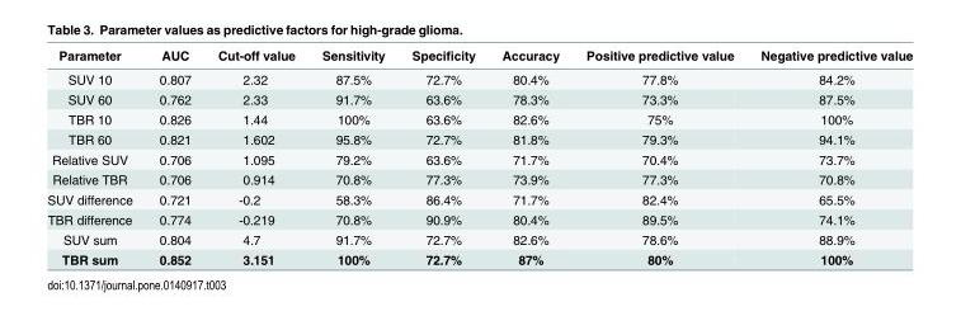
<table><thead><tr><td>Parameter</td><td>AUC</td><td>Cut-off value</td><td>Sensitivity</td><td>Specificity</td><td>Accuracy</td><td>Positive predictive value</td><td>Negative predictive value</td></tr></thead><tbody><tr><td>SUV 10</td><td>0.807</td><td>2.32</td><td>87.5%</td><td>72.7%</td><td>80.4%</td><td>77.8%</td><td>84.2%</td></tr><tr><td>SUV 60</td><td>0.762</td><td>2.33</td><td>91.7%</td><td>63.6%</td><td>78.3%</td><td>73.3%</td><td>87.5%</td></tr><tr><td>TBR 10</td><td>0.826</td><td>1.44</td><td>100%</td><td>63.6%</td><td>82.6%</td><td>75%</td><td>100%</td></tr><tr><td>TBR 60</td><td>0.821</td><td>1.602</td><td>95.8%</td><td>72.7%</td><td>81.8%</td><td>79.3%</td><td>94.1%</td></tr><tr><td>Relative SUV</td><td>0.706</td><td>1.095</td><td>79.2%</td><td>63.6%</td><td>71.7%</td><td>70.4%</td><td>73.7%</td></tr><tr><td>Relative TBR</td><td>0.706</td><td>0.914</td><td>70.8%</td><td>77.3%</td><td>73.9%</td><td>77.3%</td><td>70.8%</td></tr><tr><td>SUV difference</td><td>0.721</td><td>-0.2</td><td>58.3%</td><td>86.4%</td><td>71.7%</td><td>82.4%</td><td>65.5%</td></tr><tr><td>TBR difference</td><td>0.774</td><td>-0.219</td><td>70.8%</td><td>90.9%</td><td>80.4%</td><td>89.5%</td><td>74.1%</td></tr><tr><td>SUV sum</td><td>0.804</td><td>4.7</td><td>91.7%</td><td>72.7%</td><td>82.6%</td><td>78.6%</td><td>88.9%</td></tr><tr><td>TBR sum</td><td>0.852</td><td>3.151</td><td>100%</td><td>72.7%</td><td>87%</td><td>80%</td><td>100%</td></tr></tbody></table>